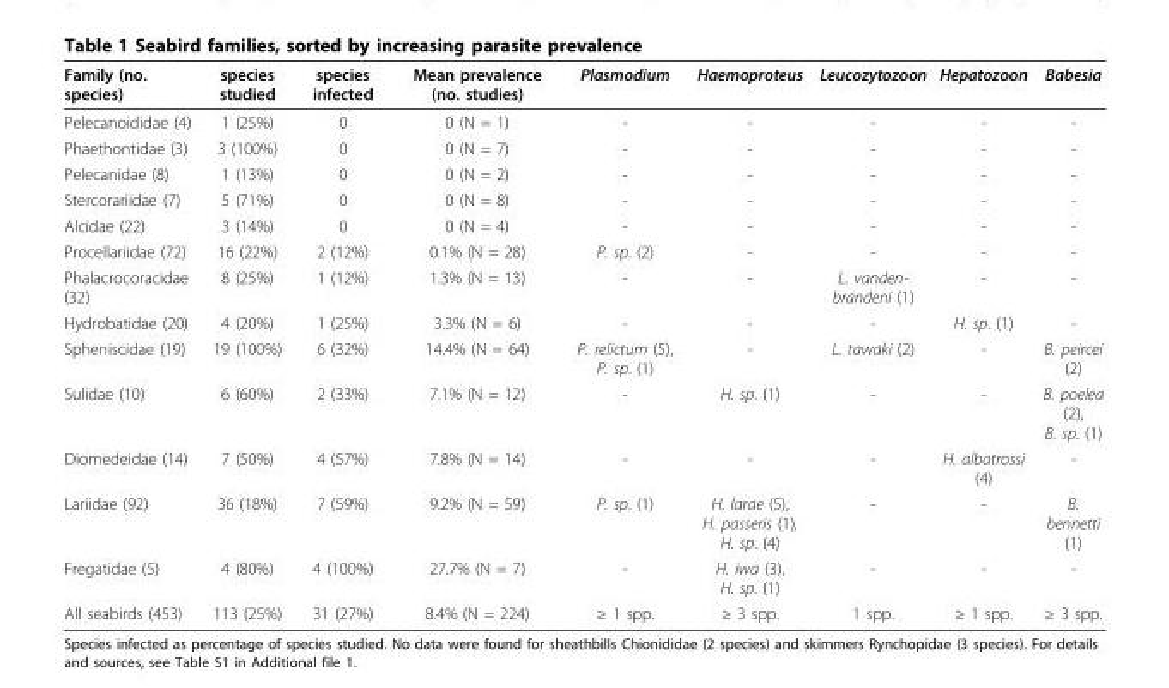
<table><thead><tr><td>Family (no. species)</td><td>species studied</td><td>species infected</td><td>Mean prevalence (no. studies)</td><td>Plasmodium</td><td>Haemoproteus</td><td>Leucozytozoon</td><td>Hepatozoon</td><td>Babesia</td></tr></thead><tbody><tr><td>Pelecanoididae (4)</td><td>1 (25%)</td><td>0</td><td>0 (N = 1)</td><td>-</td><td>-</td><td>-</td><td>-</td><td>-</td></tr><tr><td>Phaethontidae (3)</td><td>3 (100%)</td><td>0</td><td>0 (N = 7)</td><td>-</td><td>-</td><td>-</td><td>-</td><td>-</td></tr><tr><td>Pelecanidae (8)</td><td>1 (13%)</td><td>0</td><td>0 (N = 2)</td><td>-</td><td>-</td><td>-</td><td>-</td><td>-</td></tr><tr><td>Stercorariidae (7)</td><td>5 (71%)</td><td>0</td><td>0 (N = 8)</td><td>-</td><td>-</td><td>-</td><td>-</td><td>-</td></tr><tr><td>Alcidae (22)</td><td>3 (14%)</td><td>0</td><td>0 (N = 4)</td><td>-</td><td>-</td><td>-</td><td>-</td><td>-</td></tr><tr><td>Procellariidae (72)</td><td>16 (22%)</td><td>2 (12%)</td><td>0.1% (N = 28)</td><td>P. sp. (2)</td><td>-</td><td>-</td><td>-</td><td>-</td></tr><tr><td>Phalacrocoracidae (32)</td><td>8 (25%)</td><td>1 (12%)</td><td>1.3% (N = 13)</td><td>-</td><td>-</td><td>L. vanden- brandeni (1)</td><td>-</td><td>-</td></tr><tr><td>Hydrobatidae (20)</td><td>4 (20%)</td><td>1 (25%)</td><td>3.3% (N = 6)</td><td>-</td><td>-</td><td>-</td><td>H. sp. (1)</td><td>-</td></tr><tr><td>Spheniscidae (19)</td><td>19 (100%)</td><td>6 (32%)</td><td>14.4% (N = 64)</td><td>P. relictum (5), P. sp. (1)</td><td>-</td><td>L. tawaki (2)</td><td>-</td><td>B. peircei (2)</td></tr><tr><td>Sulidae (10)</td><td>6 (60%)</td><td>2 (33%)</td><td>7.1% (N = 12)</td><td>-</td><td>H. sp. (1)</td><td>-</td><td>-</td><td>B. poelea (2), B. sp. (1)</td></tr><tr><td>Diomedeidae (14)</td><td>7 (50%)</td><td>4 (57%)</td><td>7.8% (N = 14)</td><td>-</td><td>-</td><td>-</td><td>H. albatrossi (4)</td><td>-</td></tr><tr><td>Lariidae (92)</td><td>36 (18%)</td><td>7 (59%)</td><td>9.2% (N = 59)</td><td>P. sp. (1)</td><td>H. larae (5), H. passeris (1), H. sp. (4)</td><td>-</td><td>-</td><td>B. bennetti (1)</td></tr><tr><td>Fregatidae (5)</td><td>4 (80%)</td><td>4 (100%)</td><td>27.7% (N = 7)</td><td>-</td><td>H. iwa (3), H. sp. (1)</td><td>-</td><td>-</td><td>-</td></tr><tr><td>All seabirds (453)</td><td>113 (25%)</td><td>31 (27%)</td><td>8.4% (N = 224)</td><td>≥ 1 spp.</td><td>≥ 3 spp.</td><td>1 spp.</td><td>≥ 1 spp.</td><td>≥ 3 spp.</td></tr></tbody></table>